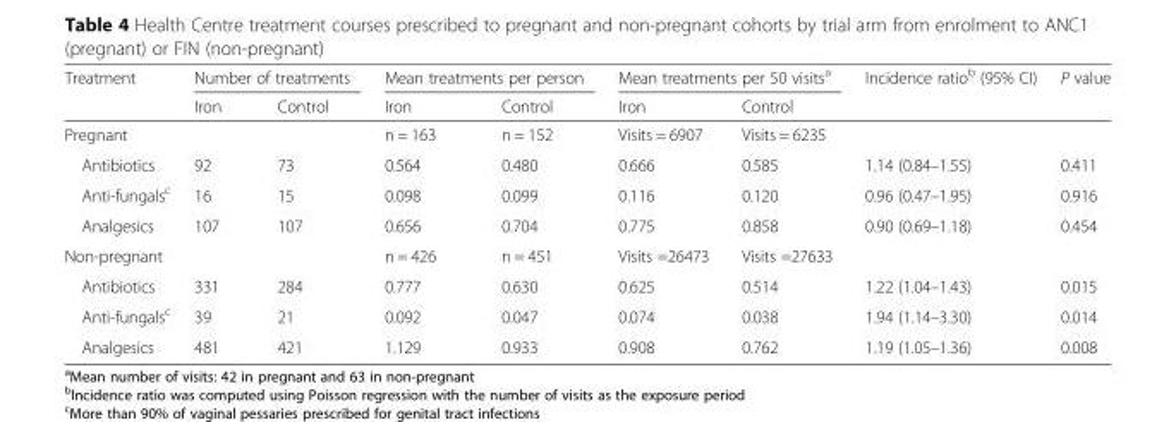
<table><thead><tr><td rowspan="2">Treatment</td><td colspan="2">Number of treatments</td><td colspan="2">Mean treatments per person</td><td colspan="2">Mean treatments per 50 visits<sup>a</sup></td><td rowspan="2">Incidence ratio<sup>b</sup> (95% CI)</td><td rowspan="2">P value</td></tr><tr><td>Iron</td><td>Control</td><td>Iron</td><td>Control</td><td>Iron</td><td>Control</td></tr></thead><tbody><tr><td>Pregnant</td><td></td><td></td><td>n = 163</td><td>n = 152</td><td>Visits = 6907</td><td>Visits = 6235</td><td></td><td></td></tr><tr><td>Antibiotics</td><td>92</td><td>73</td><td>0.564</td><td>0.480</td><td>0.666</td><td>0.585</td><td>1.14 (0.84–1.55)</td><td>0.411</td></tr><tr><td>Anti-fungals<sup>c</sup></td><td>16</td><td>15</td><td>0.098</td><td>0.099</td><td>0.116</td><td>0.120</td><td>0.96 (0.47–1.95)</td><td>0.916</td></tr><tr><td>Analgesics</td><td>107</td><td>107</td><td>0.656</td><td>0.704</td><td>0.775</td><td>0.858</td><td>0.90 (0.69–1.18)</td><td>0.454</td></tr><tr><td colspan="2">Non-pregnant</td><td></td><td>n = 426</td><td>n = 451</td><td>Visits =26473</td><td>Visits =27633</td><td></td><td></td></tr><tr><td>Antibiotics</td><td>331</td><td>284</td><td>0.777</td><td>0.630</td><td>0.625</td><td>0.514</td><td>1.22 (1.04–1.43)</td><td>0.015</td></tr><tr><td>Anti-fungals<sup>c</sup></td><td>39</td><td>21</td><td>0.092</td><td>0.047</td><td>0.074</td><td>0.038</td><td>1.94 (1.14–3.30)</td><td>0.014</td></tr><tr><td>Analgesics</td><td>481</td><td>421</td><td>1.129</td><td>0.933</td><td>0.908</td><td>0.762</td><td>1.19 (1.05–1.36)</td><td>0.008</td></tr></tbody></table>